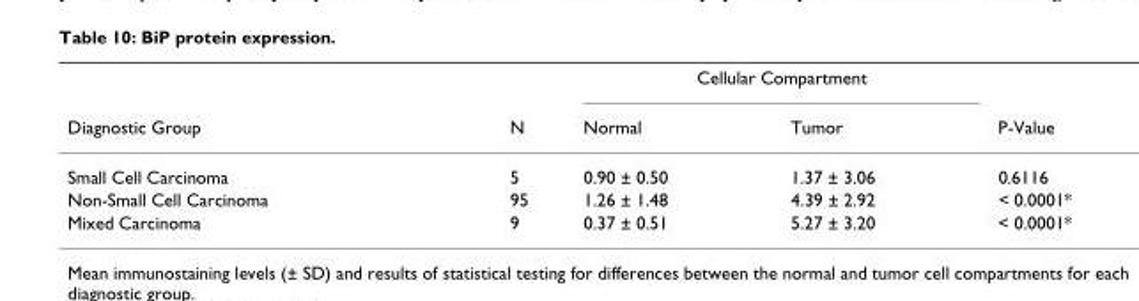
<table><thead><tr><td rowspan="2">Diagnostic Group</td><td rowspan="2">N</td><td colspan="2">Cellular Compartment</td><td rowspan="2">P-Value</td></tr><tr><td>Normal</td><td>Tumor</td></tr></thead><tbody><tr><td>Small Cell Carcinoma</td><td>5</td><td>0.90 ± 0.50</td><td>1.37 ± 3.06</td><td>0.6116</td></tr><tr><td>Non-Small Cell Carcinoma</td><td>95</td><td>1.26 ± 1.48</td><td>4.39 ± 2.92</td><td>&lt; 0.0001*</td></tr><tr><td>Mixed Carcinoma</td><td>9</td><td>0.37 ± 0.51</td><td>5.27 ± 3.20</td><td>&lt; 0.0001*</td></tr></tbody></table>